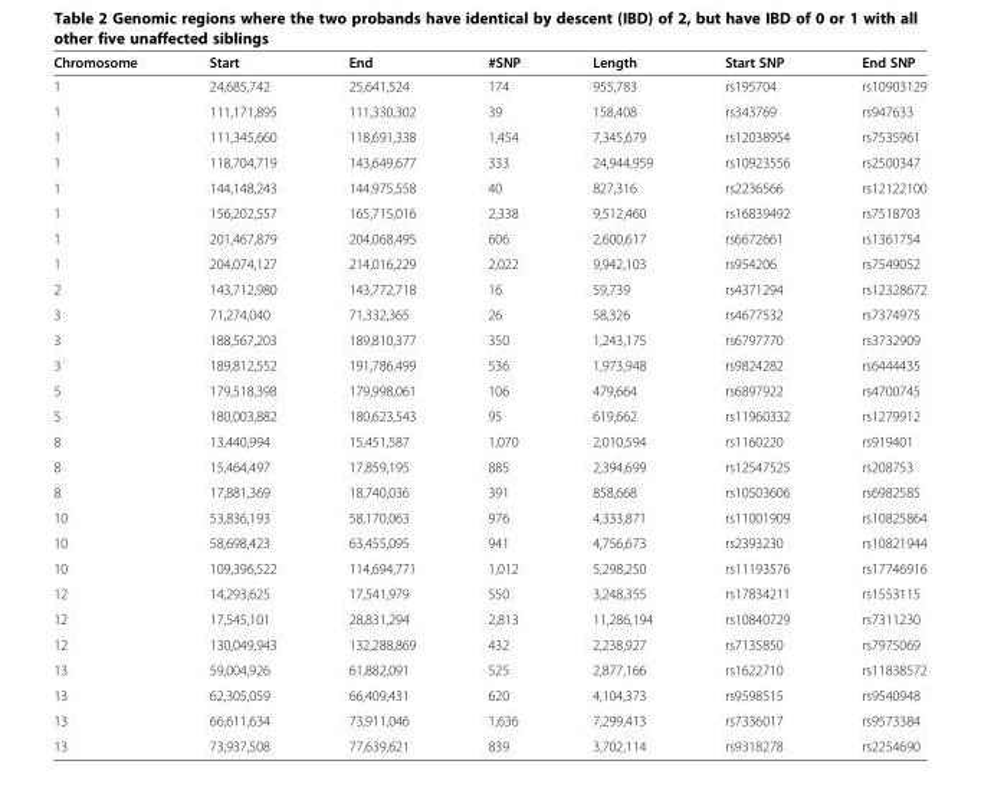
<table><thead><tr><td>Chromosome</td><td>Start</td><td>End</td><td>#SNP</td><td>Length</td><td>Start SNP</td><td>End SNP</td></tr></thead><tbody><tr><td>1</td><td>24,685,742</td><td>25,641,524</td><td>174</td><td>955,783</td><td>rs195704</td><td>rs10903129</td></tr><tr><td>1</td><td>111,171,895</td><td>111,330,302</td><td>39</td><td>158,408</td><td>rs343769</td><td>rs947633</td></tr><tr><td>1</td><td>111,345,660</td><td>118,691,338</td><td>1,454</td><td>7,345,679</td><td>rs12038954</td><td>rs7535961</td></tr><tr><td>1</td><td>118,704,719</td><td>143,649,677</td><td>333</td><td>24,944,959</td><td>rs10923556</td><td>rs2500347</td></tr><tr><td>1</td><td>144,148,243</td><td>144,975,558</td><td>40</td><td>827,316</td><td>rs2236566</td><td>rs12122100</td></tr><tr><td>1</td><td>156,202,557</td><td>165,715,016</td><td>2,338</td><td>9,512,460</td><td>rs16839492</td><td>rs7518703</td></tr><tr><td>1</td><td>201,467,879</td><td>204,068,495</td><td>606</td><td>2,600,617</td><td>rs6672661</td><td>rs1361754</td></tr><tr><td>1</td><td>204,074,127</td><td>214,016,229</td><td>2,022</td><td>9,942,103</td><td>rs954206</td><td>rs7549052</td></tr><tr><td>2</td><td>143,712,980</td><td>143,772,718</td><td>16</td><td>59,739</td><td>rs4371294</td><td>rs12328672</td></tr><tr><td>3</td><td>71,274,040</td><td>71,332,365</td><td>26</td><td>58,326</td><td>rs4677532</td><td>rs7374975</td></tr><tr><td>3</td><td>188,567,203</td><td>189,810,377</td><td>350</td><td>1,243,175</td><td>rs6797770</td><td>rs3732909</td></tr><tr><td>3</td><td>189,812,552</td><td>191,786,499</td><td>536</td><td>1,973,948</td><td>rs9824282</td><td>rs6444435</td></tr><tr><td>5</td><td>179,518,398</td><td>179,998,061</td><td>106</td><td>479,664</td><td>rs6897922</td><td>rs4700745</td></tr><tr><td>5</td><td>180,003,882</td><td>180,623,543</td><td>95</td><td>619,662</td><td>rs11960332</td><td>rs1279912</td></tr><tr><td>8</td><td>13,440,994</td><td>15,451,587</td><td>1,070</td><td>2,010,594</td><td>rs1160220</td><td>rs919401</td></tr><tr><td>8</td><td>15,464,497</td><td>17,859,195</td><td>885</td><td>2,394,699</td><td>rs12547525</td><td>rs208753</td></tr><tr><td>8</td><td>17,881,369</td><td>18,740,036</td><td>391</td><td>858,668</td><td>rs10503606</td><td>rs6982585</td></tr><tr><td>10</td><td>53,836,193</td><td>58,170,063</td><td>976</td><td>4,333,871</td><td>rs11001909</td><td>rs10825864</td></tr><tr><td>10</td><td>58,698,423</td><td>63,455,095</td><td>941</td><td>4,756,673</td><td>rs2393230</td><td>rs10821944</td></tr><tr><td>10</td><td>109,396,522</td><td>114,694,771</td><td>1,012</td><td>5,298,250</td><td>rs11193576</td><td>rs17746916</td></tr><tr><td>12</td><td>14,293,625</td><td>17,541,979</td><td>550</td><td>3,248,355</td><td>rs17834211</td><td>rs1553115</td></tr><tr><td>12</td><td>17,545,101</td><td>28,831,294</td><td>2,813</td><td>11,286,194</td><td>rs10840729</td><td>rs7311230</td></tr><tr><td>12</td><td>130,049,943</td><td>132,288,869</td><td>432</td><td>2,238,927</td><td>rs7135850</td><td>rs7975069</td></tr><tr><td>13</td><td>59,004,926</td><td>61,882,091</td><td>525</td><td>2,877,166</td><td>rs1622710</td><td>rs11838572</td></tr><tr><td>13</td><td>62,305,059</td><td>66,409,431</td><td>620</td><td>4,104,373</td><td>rs9598515</td><td>rs9540948</td></tr><tr><td>13</td><td>66,611,634</td><td>73,911,046</td><td>1,636</td><td>7,299,413</td><td>rs7336017</td><td>rs9573384</td></tr><tr><td>13</td><td>73,937,508</td><td>77,639,621</td><td>839</td><td>3,702,114</td><td>rs9318278</td><td>rs2254690</td></tr></tbody></table>